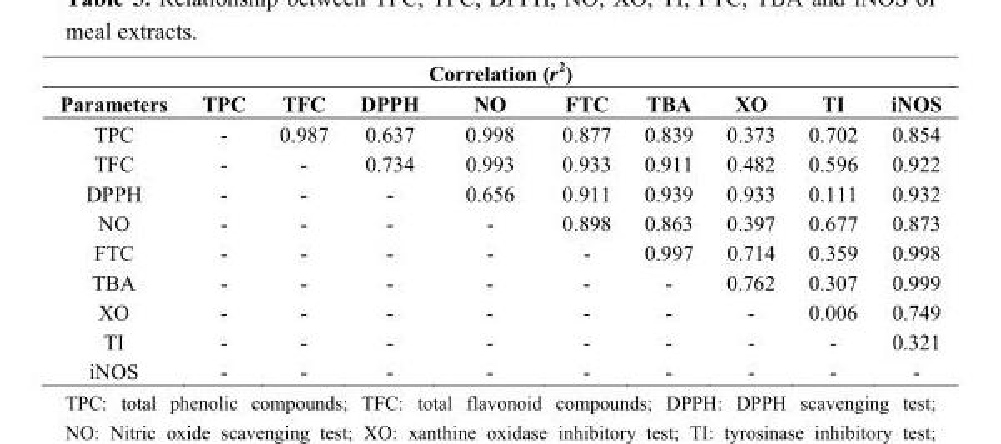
<table><thead><tr><td colspan="10">Correlation (r<sup>2</sup>)</td></tr><tr><td>Parameters</td><td>TPC</td><td>TFC</td><td>DPPH</td><td>NO</td><td>FTC</td><td>TBA</td><td>XO</td><td>TI</td><td>iNOS</td></tr></thead><tbody><tr><td>TPC</td><td>-</td><td>0.987</td><td>0.637</td><td>0.998</td><td>0.877</td><td>0.839</td><td>0.373</td><td>0.702</td><td>0.854</td></tr><tr><td>TFC</td><td>-</td><td>-</td><td>0.734</td><td>0.993</td><td>0.933</td><td>0.911</td><td>0.482</td><td>0.596</td><td>0.922</td></tr><tr><td>DPPH</td><td>-</td><td>-</td><td>-</td><td>0.656</td><td>0.911</td><td>0.939</td><td>0.933</td><td>0.111</td><td>0.932</td></tr><tr><td>NO</td><td>-</td><td>-</td><td>-</td><td>-</td><td>0.898</td><td>0.863</td><td>0.397</td><td>0.677</td><td>0.873</td></tr><tr><td>FTC</td><td>-</td><td>-</td><td>-</td><td>-</td><td>-</td><td>0.997</td><td>0.714</td><td>0.359</td><td>0.998</td></tr><tr><td>TBA</td><td>-</td><td>-</td><td>-</td><td>-</td><td>-</td><td>-</td><td>0.762</td><td>0.307</td><td>0.999</td></tr><tr><td>XO</td><td>-</td><td>-</td><td>-</td><td>-</td><td>-</td><td>-</td><td>-</td><td>0.006</td><td>0.749</td></tr><tr><td>TI</td><td>-</td><td>-</td><td>-</td><td>-</td><td>-</td><td>-</td><td>-</td><td>-</td><td>0.321</td></tr><tr><td>iNOS</td><td>-</td><td>-</td><td>-</td><td>-</td><td>-</td><td>-</td><td>-</td><td>-</td><td>-</td></tr></tbody></table>